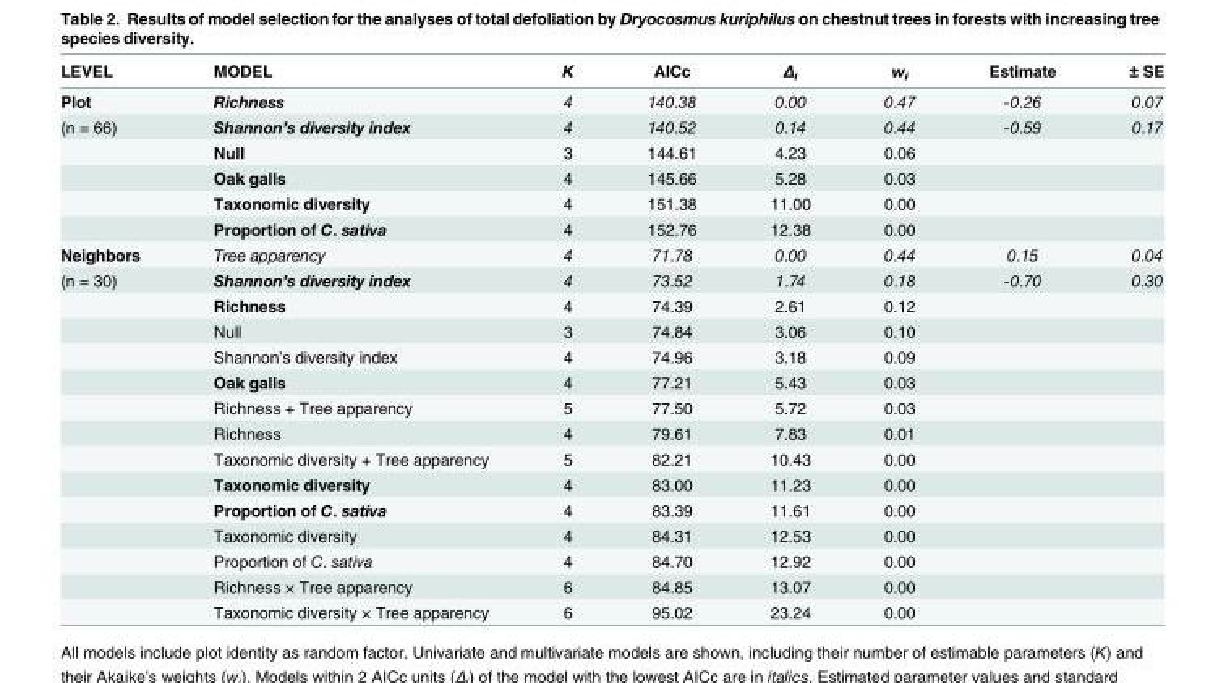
<table><thead><tr><td>LEVEL</td><td>MODEL</td><td>K</td><td>AICc</td><td>Δ<sub>i</sub></td><td>w<sub>i</sub></td><td>Estimate</td><td>± SE</td></tr></thead><tbody><tr><td>Plot</td><td>Richness</td><td>4</td><td>140.38</td><td>0.00</td><td>0.47</td><td>-0.26</td><td>0.07</td></tr><tr><td rowspan="5">(n = 66)</td><td>Shannon’s diversity index</td><td>4</td><td>140.52</td><td>0.14</td><td>0.44</td><td>-0.59</td><td>0.17</td></tr><tr><td>Null</td><td>3</td><td>144.61</td><td>4.23</td><td>0.06</td><td></td><td></td></tr><tr><td>Oak galls</td><td>4</td><td>145.66</td><td>5.28</td><td>0.03</td><td></td><td></td></tr><tr><td>Taxonomic diversity</td><td>4</td><td>151.38</td><td>11.00</td><td>0.00</td><td></td><td></td></tr><tr><td>Proportion of C. sativa</td><td>4</td><td>152.76</td><td>12.38</td><td>0.00</td><td></td><td></td></tr><tr><td>Neighbors</td><td>Tree apparency</td><td>4</td><td>71.78</td><td>0.00</td><td>0.44</td><td>0.15</td><td>0.04</td></tr><tr><td rowspan="14">(n = 30)</td><td>Shannon’s diversity index</td><td>4</td><td>73.52</td><td>1.74</td><td>0.18</td><td>-0.70</td><td>0.30</td></tr><tr><td>Richness</td><td>4</td><td>74.39</td><td>2.61</td><td>0.12</td><td></td><td></td></tr><tr><td>Null</td><td>3</td><td>74.84</td><td>3.06</td><td>0.10</td><td></td><td></td></tr><tr><td>Shannon’s diversity index</td><td>4</td><td>74.96</td><td>3.18</td><td>0.09</td><td></td><td></td></tr><tr><td>Oak galls</td><td>4</td><td>77.21</td><td>5.43</td><td>0.03</td><td></td><td></td></tr><tr><td>Richness + Tree apparency</td><td>5</td><td>77.50</td><td>5.72</td><td>0.03</td><td></td><td></td></tr><tr><td>Richness</td><td>4</td><td>79.61</td><td>7.83</td><td>0.01</td><td></td><td></td></tr><tr><td>Taxonomic diversity + Tree apparency</td><td>5</td><td>82.21</td><td>10.43</td><td>0.00</td><td></td><td></td></tr><tr><td>Taxonomic diversity</td><td>4</td><td>83.00</td><td>11.23</td><td>0.00</td><td></td><td></td></tr><tr><td>Proportion of C. sativa</td><td>4</td><td>83.39</td><td>11.61</td><td>0.00</td><td></td><td></td></tr><tr><td>Taxonomic diversity</td><td>4</td><td>84.31</td><td>12.53</td><td>0.00</td><td></td><td></td></tr><tr><td>Proportion of C. sativa</td><td>4</td><td>84.70</td><td>12.92</td><td>0.00</td><td></td><td></td></tr><tr><td>Richness × Tree apparency</td><td>6</td><td>84.85</td><td>13.07</td><td>0.00</td><td></td><td></td></tr><tr><td>Taxonomic diversity × Tree apparency</td><td>6</td><td>95.02</td><td>23.24</td><td>0.00</td><td></td><td></td></tr></tbody></table>